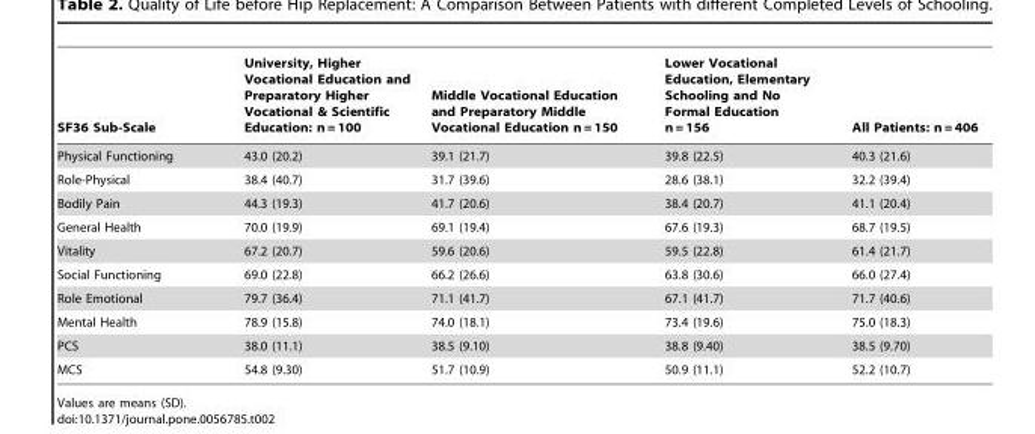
<table><thead><tr><td>SF36 Sub-Scale</td><td>University, Higher Vocational Education and Preparatory Higher Vocational &amp; Scientific Education: n = 100</td><td>Middle Vocational Education and Preparatory Middle Vocational Education n = 150</td><td>Lower Vocational Education, Elementary Schooling and No Formal Education n = 156</td><td>All Patients: n = 406</td></tr></thead><tbody><tr><td>Physical Functioning</td><td>43.0 (20.2)</td><td>39.1 (21.7)</td><td>39.8 (22.5)</td><td>40.3 (21.6)</td></tr><tr><td>Role-Physical</td><td>38.4 (40.7)</td><td>31.7 (39.6)</td><td>28.6 (38.1)</td><td>32.2 (39.4)</td></tr><tr><td>Bodily Pain</td><td>44.3 (19.3)</td><td>41.7 (20.6)</td><td>38.4 (20.7)</td><td>41.1 (20.4)</td></tr><tr><td>General Health</td><td>70.0 (19.9)</td><td>69.1 (19.4)</td><td>67.6 (19.3)</td><td>68.7 (19.5)</td></tr><tr><td>Vitality</td><td>67.2 (20.7)</td><td>59.6 (20.6)</td><td>59.5 (22.8)</td><td>61.4 (21.7)</td></tr><tr><td>Social Functioning</td><td>69.0 (22.8)</td><td>66.2 (26.6)</td><td>63.8 (30.6)</td><td>66.0 (27.4)</td></tr><tr><td>Role Emotional</td><td>79.7 (36.4)</td><td>71.1 (41.7)</td><td>67.1 (41.7)</td><td>71.7 (40.6)</td></tr><tr><td>Mental Health</td><td>78.9 (15.8)</td><td>74.0 (18.1)</td><td>73.4 (19.6)</td><td>75.0 (18.3)</td></tr><tr><td>PCS</td><td>38.0 (11.1)</td><td>38.5 (9.10)</td><td>38.8 (9.40)</td><td>38.5 (9.70)</td></tr><tr><td>MCS</td><td>54.8 (9.30)</td><td>51.7 (10.9)</td><td>50.9 (11.1)</td><td>52.2 (10.7)</td></tr></tbody></table>